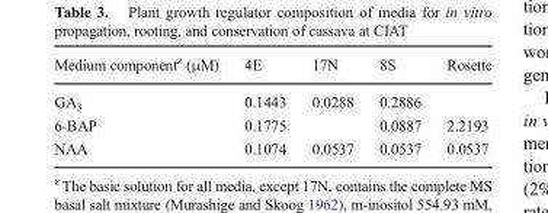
<table><thead><tr><td>Medium component<sup>z</sup> (μM)</td><td>4E</td><td>17N</td><td>8S</td><td>Rosette</td></tr></thead><tbody><tr><td>GA<sub>3</sub></td><td>0.1443</td><td>0.0288</td><td>0.2886</td><td></td></tr><tr><td>6-BAP</td><td>0.1775</td><td></td><td>0.0887</td><td>2.2193</td></tr><tr><td>NAA</td><td>0.1074</td><td>0.0537</td><td>0.0537</td><td>0.0537</td></tr></tbody></table>